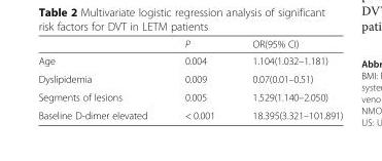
<table><thead><tr><td></td><td>P</td><td>OR(95% CI)</td></tr></thead><tbody><tr><td>Age</td><td>0.004</td><td>1.104(1.032–1.181)</td></tr><tr><td>Dyslipidemia</td><td>0.009</td><td>0.07(0.01–0.51)</td></tr><tr><td>Segments of lesions</td><td>0.005</td><td>1.529(1.140–2.050)</td></tr><tr><td>Baseline D-dimer elevated</td><td>&lt; 0.001</td><td>18.395(3.321–101.891)</td></tr></tbody></table>